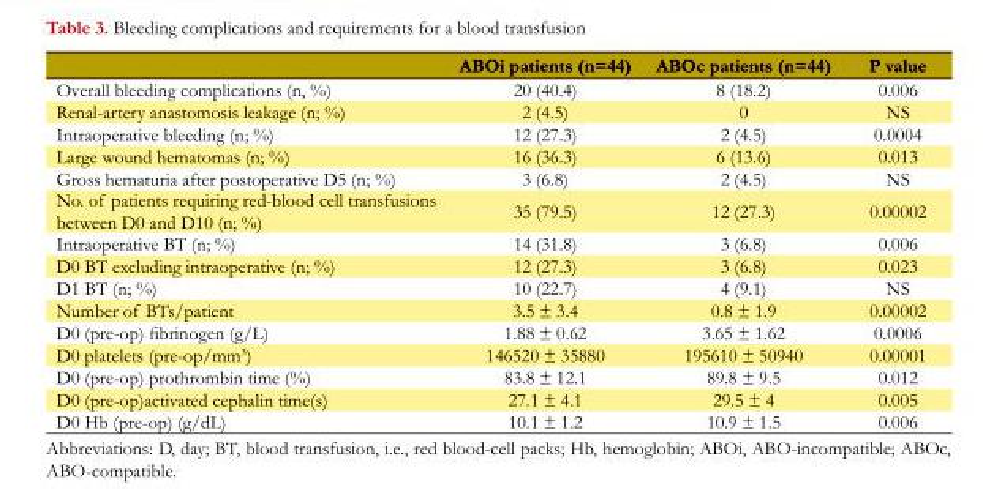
<table><thead><tr><td></td><td>ABOi patients (n=44)</td><td>ABOc patients (n=44)</td><td>P value</td></tr></thead><tbody><tr><td>Overall bleeding complications (n, %)</td><td>20 (40.4)</td><td>8 (18.2)</td><td>0.006</td></tr><tr><td>Renal-artery anastomosis leakage (n; %)</td><td>2 (4.5)</td><td>0</td><td>NS</td></tr><tr><td>Intraoperative bleeding (n; %)</td><td>12 (27.3)</td><td>2 (4.5)</td><td>0.0004</td></tr><tr><td>Large wound hematomas (n; %)</td><td>16 (36.3)</td><td>6 (13.6)</td><td>0.013</td></tr><tr><td>Gross hematuria after postoperative D5 (n; %)</td><td>3 (6.8)</td><td>2 (4.5)</td><td>NS</td></tr><tr><td>No. of patients requiring red-blood cell transfusions between D0 and D10 (n; %)</td><td>35 (79.5)</td><td>12 (27.3)</td><td>0.00002</td></tr><tr><td>Intraoperative BT (n; %)</td><td>14 (31.8)</td><td>3 (6.8)</td><td>0.006</td></tr><tr><td>D0 BT excluding intraoperative (n; %)</td><td>12 (27.3)</td><td>3 (6.8)</td><td>0.023</td></tr><tr><td>D1 BT (n; %)</td><td>10 (22.7)</td><td>4 (9.1)</td><td>NS</td></tr><tr><td>Number of BTs/patient</td><td>3.5 ± 3.4</td><td>0.8 ± 1.9</td><td>0.00002</td></tr><tr><td>D0 (pre-op) fibrinogen (g/L)</td><td>1.88 ± 0.62</td><td>3.65 ± 1.62</td><td>0.0006</td></tr><tr><td>D0 platelets (pre-op/mm<sup>3</sup>)</td><td>146520 ± 35880</td><td>195610 ± 50940</td><td>0.00001</td></tr><tr><td>D0 (pre-op) prothrombin time (%)</td><td>83.8 ± 12.1</td><td>89.8 ± 9.5</td><td>0.012</td></tr><tr><td>D0 (pre-op)activated cephalin time(s)</td><td>27.1 ± 4.1</td><td>29.5 ± 4</td><td>0.005</td></tr><tr><td>D0 Hb (pre-op) (g/dL)</td><td>10.1 ± 1.2</td><td>10.9 ± 1.5</td><td>0.006</td></tr></tbody></table>